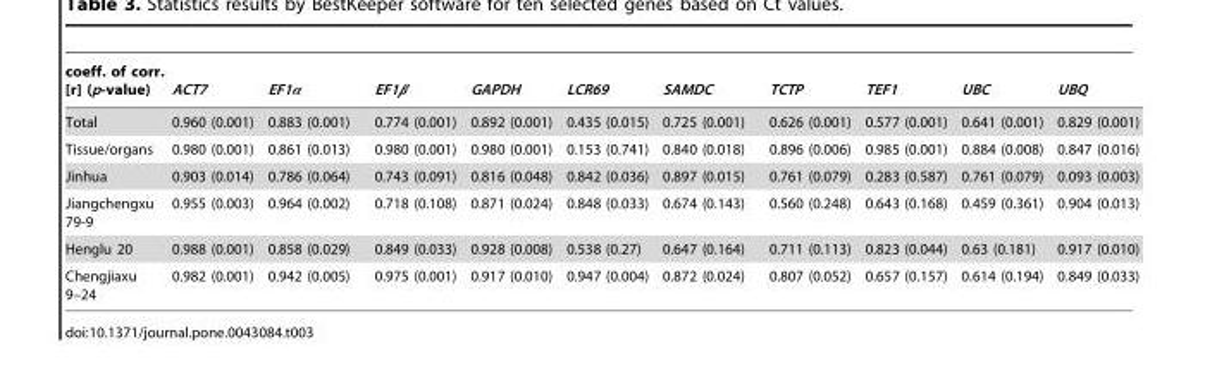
<table><thead><tr><td>coeff. of corr. [r] (p-value)</td><td>ACT7</td><td>EF1α</td><td>EF1β</td><td>GAPDH</td><td>LCR69</td><td>SAMDC</td><td>TCTP</td><td>TEF1</td><td>UBC</td><td>UBQ</td></tr></thead><tbody><tr><td>Total</td><td>0.960 (0.001)</td><td>0.883 (0.001)</td><td>0.774 (0.001)</td><td>0.892 (0.001)</td><td>0.435 (0.015)</td><td>0.725 (0.001)</td><td>0.626 (0.001)</td><td>0.577 (0.001)</td><td>0.641 (0.001)</td><td>0.829 (0.001)</td></tr><tr><td>Tissue/organs</td><td>0.980 (0.001)</td><td>0.861 (0.013)</td><td>0.980 (0.001)</td><td>0.980 (0.001)</td><td>0.153 (0.741)</td><td>0.840 (0.018)</td><td>0.896 (0.006)</td><td>0.985 (0.001)</td><td>0.884 (0.008)</td><td>0.847 (0.016)</td></tr><tr><td>Jinhua</td><td>0.903 (0.014)</td><td>0.786 (0.064)</td><td>0.743 (0.091)</td><td>0.816 (0.048)</td><td>0.842 (0.036)</td><td>0.897 (0.015)</td><td>0.761 (0.079)</td><td>0.283 (0.587)</td><td>0.761 (0.079)</td><td>0.093 (0.003)</td></tr><tr><td>Jiangchengxu 79-9</td><td>0.955 (0.003)</td><td>0.964 (0.002)</td><td>0.718 (0.108)</td><td>0.871 (0.024)</td><td>0.848 (0.033)</td><td>0.674 (0.143)</td><td>0.560 (0.248)</td><td>0.643 (0.168)</td><td>0.459 (0.361)</td><td>0.904 (0.013)</td></tr><tr><td>Henglu 20</td><td>0.988 (0.001)</td><td>0.858 (0.029)</td><td>0.849 (0.033)</td><td>0.928 (0.008)</td><td>0.538 (0.27)</td><td>0.647 (0.164)</td><td>0.711 (0.113)</td><td>0.823 (0.044)</td><td>0.63 (0.181)</td><td>0.917 (0.010)</td></tr><tr><td>Chengjiaxu 9–24</td><td>0.982 (0.001)</td><td>0.942 (0.005)</td><td>0.975 (0.001)</td><td>0.917 (0.010)</td><td>0.947 (0.004)</td><td>0.872 (0.024)</td><td>0.807 (0.052)</td><td>0.657 (0.157)</td><td>0.614 (0.194)</td><td>0.849 (0.033)</td></tr></tbody></table>